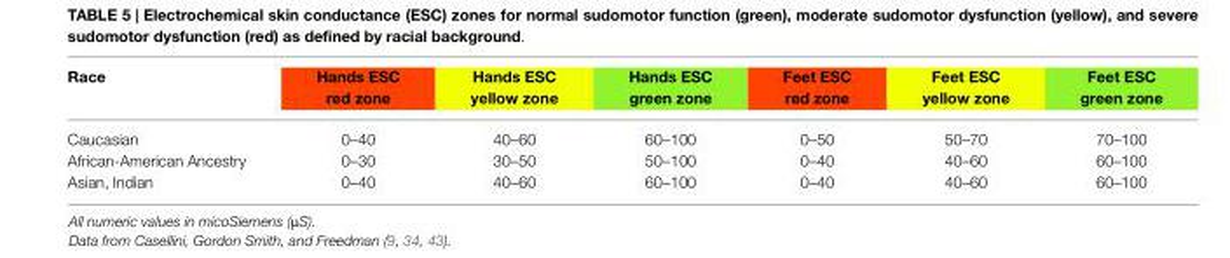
<table><thead><tr><td>Race</td><td>Hands ESC red zone</td><td>Hands ESC yellow zone</td><td>Hands ESC green zone</td><td>Feet ESC red zone</td><td>Feet ESC yellow zone</td><td>Feet ESC green zone</td></tr></thead><tbody><tr><td>Caucasian</td><td>0–40</td><td>40–60</td><td>60–100</td><td>0–50</td><td>50–70</td><td>70–100</td></tr><tr><td>African-American Ancestry</td><td>0–30</td><td>30–50</td><td>50–100</td><td>0–40</td><td>40–60</td><td>60–100</td></tr><tr><td>Asian, Indian</td><td>0–40</td><td>40–60</td><td>60–100</td><td>0–40</td><td>40–60</td><td>60–100</td></tr></tbody></table>